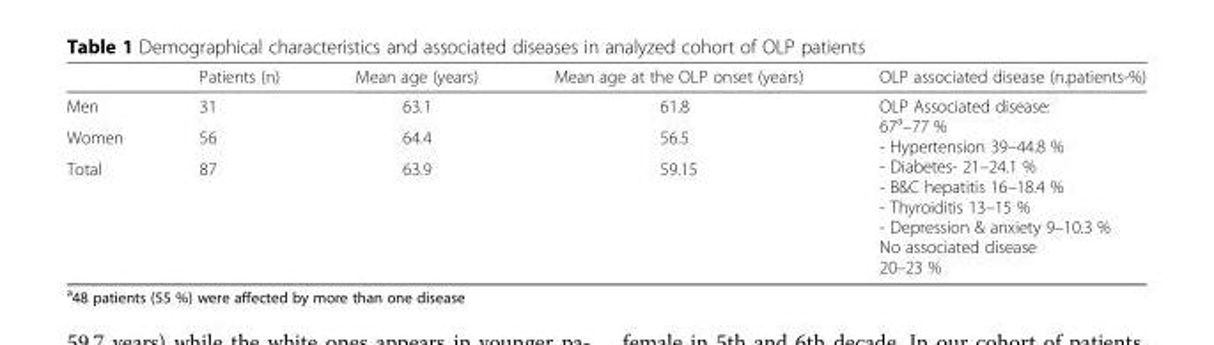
<table><thead><tr><td></td><td>Patients (n)</td><td>Mean age (years)</td><td>Mean age at the OLP onset (years)</td><td>OLP associated disease (n.patients-%)</td></tr></thead><tbody><tr><td>Men</td><td>31</td><td>63.1</td><td>61.8</td><td rowspan="3">OLP Associated disease: 67<sup>a</sup>–77 % - Hypertension 39–44.8 % - Diabetes- 21–24.1 % - B&amp;C hepatitis 16–18.4 % - Thyroiditis 13–15 % - Depression &amp; anxiety 9–10.3 % No associated disease 20–23 %</td></tr><tr><td>Women</td><td>56</td><td>64.4</td><td>56.5</td></tr><tr><td>Total</td><td>87</td><td>63.9</td><td>59.15</td></tr></tbody></table>